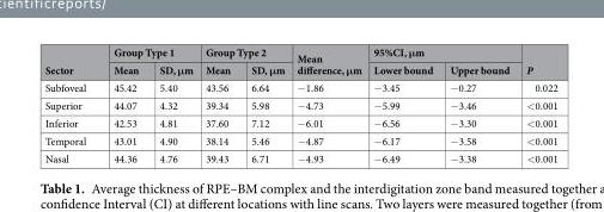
<table><thead><tr><td rowspan="2">Sector</td><td colspan="2">Group Type 1</td><td colspan="2">Group Type 2</td><td rowspan="2">Mean difference, μm</td><td colspan="2">95%CI, μm</td><td rowspan="2">P</td></tr><tr><td>Mean</td><td>SD, μm</td><td>Mean</td><td>SD, μm</td><td>Lower bound</td><td>Upper bound</td></tr></thead><tbody><tr><td>Subfoveal</td><td>45.42</td><td>5.40</td><td>43.56</td><td>6.64</td><td>−1.86</td><td>−3.45</td><td>−0.27</td><td>0.022</td></tr><tr><td>Superior</td><td>44.07</td><td>4.32</td><td>39.34</td><td>5.98</td><td>−4.73</td><td>−5.99</td><td>−3.46</td><td>&lt;0.001</td></tr><tr><td>Inferior</td><td>42.53</td><td>4.81</td><td>37.60</td><td>7.12</td><td>−6.01</td><td>−6.56</td><td>−3.30</td><td>&lt;0.001</td></tr><tr><td>Temporal</td><td>43.01</td><td>4.90</td><td>38.14</td><td>5.46</td><td>−4.87</td><td>−6.17</td><td>−3.58</td><td>&lt;0.001</td></tr><tr><td>Nasal</td><td>44.36</td><td>4.76</td><td>39.43</td><td>6.71</td><td>−4.93</td><td>−6.49</td><td>−3.38</td><td>&lt;0.001</td></tr></tbody></table>